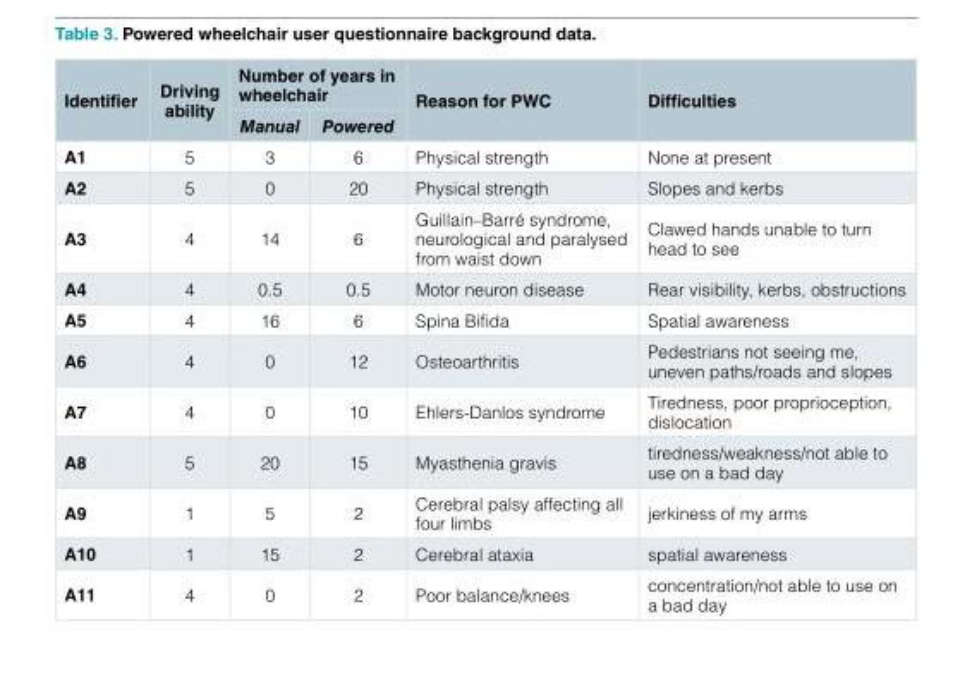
<table><thead><tr><td rowspan="2">Identifier</td><td rowspan="2">Driving ability</td><td colspan="2">Number of years in wheelchair</td><td rowspan="2">Reason for PWC</td><td rowspan="2">Difficulties</td></tr><tr><td>Manual</td><td>Powered</td></tr></thead><tbody><tr><td>A1</td><td>5</td><td>3</td><td>6</td><td>Physical strength</td><td>None at present</td></tr><tr><td>A2</td><td>5</td><td>0</td><td>20</td><td>Physical strength</td><td>Slopes and kerbs</td></tr><tr><td>A3</td><td>4</td><td>14</td><td>6</td><td>Guillain–Barré syndrome, neurological and paralysed from waist down</td><td>Clawed hands unable to turn head to see</td></tr><tr><td>A4</td><td>4</td><td>0.5</td><td>0.5</td><td>Motor neuron disease</td><td>Rear visibility, kerbs, obstructions</td></tr><tr><td>A5</td><td>4</td><td>16</td><td>6</td><td>Spina Bifida</td><td>Spatial awareness</td></tr><tr><td>A6</td><td>4</td><td>0</td><td>12</td><td>Osteoarthritis</td><td>Pedestrians not seeing me, uneven paths/roads and slopes</td></tr><tr><td>A7</td><td>4</td><td>0</td><td>10</td><td>Ehlers-Danlos syndrome</td><td>Tiredness, poor proprioception, dislocation</td></tr><tr><td>A8</td><td>5</td><td>20</td><td>15</td><td>Myasthenia gravis</td><td>tiredness/weakness/not able to use on a bad day</td></tr><tr><td>A9</td><td>1</td><td>5</td><td>2</td><td>Cerebral palsy affecting all four limbs</td><td>jerkiness of my arms</td></tr><tr><td>A10</td><td>1</td><td>15</td><td>2</td><td>Cerebral ataxia</td><td>spatial awareness</td></tr><tr><td>A11</td><td>4</td><td>0</td><td>2</td><td>Poor balance/knees</td><td>concentration/not able to use on a bad day</td></tr></tbody></table>